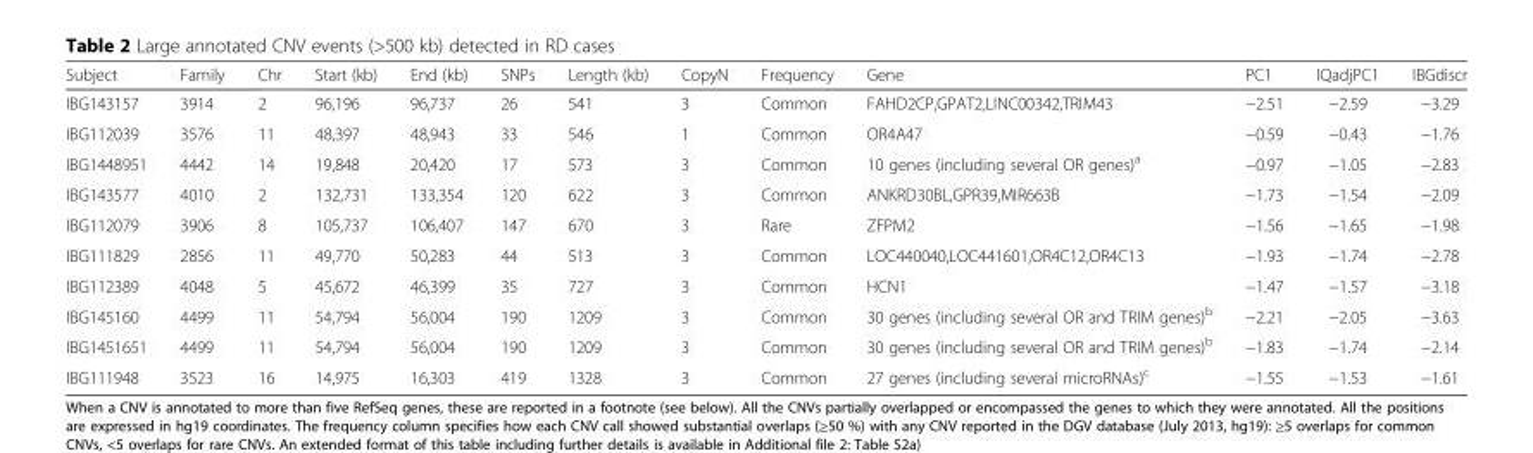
<table><thead><tr><td>Subject</td><td>Family</td><td>Chr</td><td>Start (kb)</td><td>End (kb)</td><td>SNPs</td><td>Length (kb)</td><td>CopyN</td><td>Frequency</td><td>Gene</td><td>PC1</td><td>IQadjPC1</td><td>IBGdiscr</td></tr></thead><tbody><tr><td>IBG143157</td><td>3914</td><td>2</td><td>96,196</td><td>96,737</td><td>26</td><td>541</td><td>3</td><td>Common</td><td>FAHD2CP,GPAT2,LINC00342,TRIM43</td><td>−2.51</td><td>−2.59</td><td>−3.29</td></tr><tr><td>IBG112039</td><td>3576</td><td>11</td><td>48,397</td><td>48,943</td><td>33</td><td>546</td><td>1</td><td>Common</td><td>OR4A47</td><td>−0.59</td><td>−0.43</td><td>−1.76</td></tr><tr><td>IBG1448951</td><td>4442</td><td>14</td><td>19,848</td><td>20,420</td><td>17</td><td>573</td><td>3</td><td>Common</td><td>10 genes (including several OR genes)<sup>a</sup></td><td>−0.97</td><td>−1.05</td><td>−2.83</td></tr><tr><td>IBG143577</td><td>4010</td><td>2</td><td>132,731</td><td>133,354</td><td>120</td><td>622</td><td>3</td><td>Common</td><td>ANKRD30BL,GPR39,MIR663B</td><td>−1.73</td><td>−1.54</td><td>−2.09</td></tr><tr><td>IBG112079</td><td>3906</td><td>8</td><td>105,737</td><td>106,407</td><td>147</td><td>670</td><td>3</td><td>Rare</td><td>ZFPM2</td><td>−1.56</td><td>−1.65</td><td>−1.98</td></tr><tr><td>IBG111829</td><td>2856</td><td>11</td><td>49,770</td><td>50,283</td><td>44</td><td>513</td><td>3</td><td>Common</td><td>LOC440040,LOC441601,OR4C12,OR4C13</td><td>−1.93</td><td>−1.74</td><td>−2.78</td></tr><tr><td>IBG112389</td><td>4048</td><td>5</td><td>45,672</td><td>46,399</td><td>35</td><td>727</td><td>3</td><td>Common</td><td>HCN1</td><td>−1.47</td><td>−1.57</td><td>−3.18</td></tr><tr><td>IBG145160</td><td>4499</td><td>11</td><td>54,794</td><td>56,004</td><td>190</td><td>1209</td><td>3</td><td>Common</td><td>30 genes (including several OR and TRIM genes)<sup>b</sup></td><td>−2.21</td><td>−2.05</td><td>−3.63</td></tr><tr><td>IBG1451651</td><td>4499</td><td>11</td><td>54,794</td><td>56,004</td><td>190</td><td>1209</td><td>3</td><td>Common</td><td>30 genes (including several OR and TRIM genes)<sup>b</sup></td><td>−1.83</td><td>−1.74</td><td>−2.14</td></tr><tr><td>IBG111948</td><td>3523</td><td>16</td><td>14,975</td><td>16,303</td><td>419</td><td>1328</td><td>3</td><td>Common</td><td>27 genes (including several microRNAs)<sup>c</sup></td><td>−1.55</td><td>−1.53</td><td>−1.61</td></tr></tbody></table>